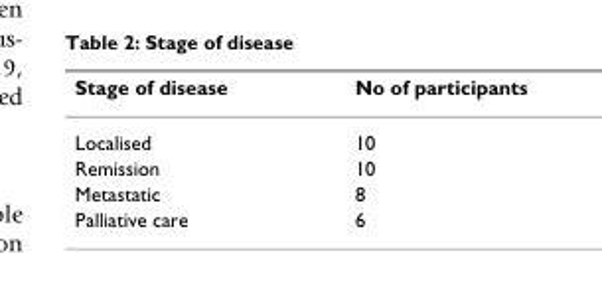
<table><thead><tr><td>Stage of disease</td><td>No of participants</td></tr></thead><tbody><tr><td>Localised</td><td>10</td></tr><tr><td>Remission</td><td>10</td></tr><tr><td>Metastatic</td><td>8</td></tr><tr><td>Palliative care</td><td>6</td></tr></tbody></table>